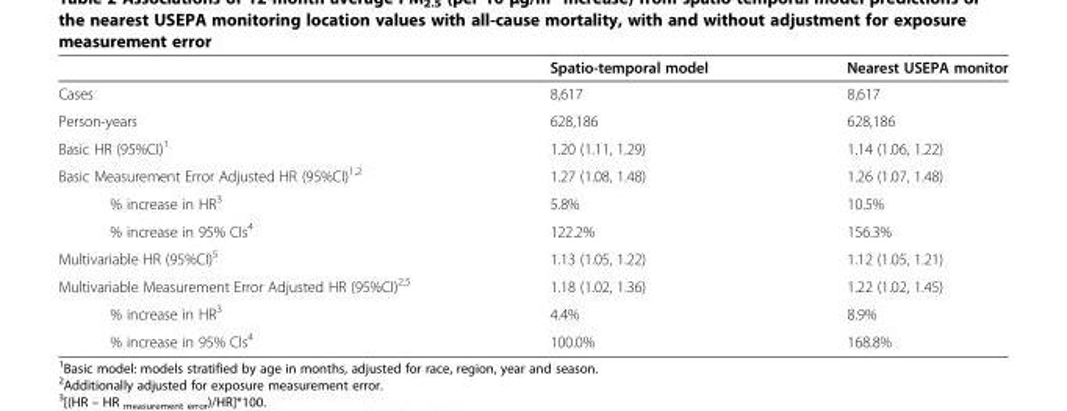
<table><thead><tr><td></td><td>Spatio-temporal model</td><td>Nearest USEPA monitor</td></tr></thead><tbody><tr><td>Cases</td><td>8,617</td><td>8,617</td></tr><tr><td>Person-years</td><td>628,186</td><td>628,186</td></tr><tr><td>Basic HR (95%CI)<sup>1</sup></td><td>1.20 (1.11, 1.29)</td><td>1.14 (1.06, 1.22)</td></tr><tr><td>Basic Measurement Error Adjusted HR (95%CI)<sup>1,2</sup></td><td>1.27 (1.08, 1.48)</td><td>1.26 (1.07, 1.48)</td></tr><tr><td>% increase in HR<sup>3</sup></td><td>5.8%</td><td>10.5%</td></tr><tr><td>% increase in 95% CIs<sup>4</sup></td><td>122.2%</td><td>156.3%</td></tr><tr><td>Multivariable HR (95%CI)<sup>5</sup></td><td>1.13 (1.05, 1.22)</td><td>1.12 (1.05, 1.21)</td></tr><tr><td>Multivariable Measurement Error Adjusted HR (95%CI)<sup>2,5</sup></td><td>1.18 (1.02, 1.36)</td><td>1.22 (1.02, 1.45)</td></tr><tr><td>% increase in HR<sup>3</sup></td><td>4.4%</td><td>8.9%</td></tr><tr><td>% increase in 95% CIs<sup>4</sup></td><td>100.0%</td><td>168.8%</td></tr></tbody></table>